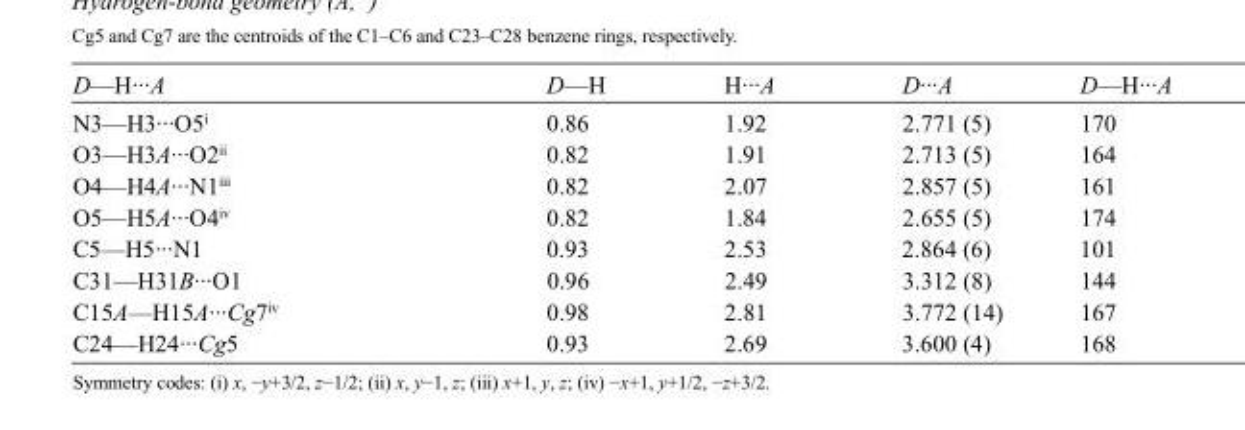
<table><tbody><tr><td>D—H···A</td><td>D—H</td><td>H···A</td><td>D···A</td><td>D—H···A</td></tr><tr><td>N3—H3···O5<sup>i</sup></td><td>0.86</td><td>1.92</td><td>2.771 (5)</td><td>170</td></tr><tr><td>O3—H3A···O2<sup>ii</sup></td><td>0.82</td><td>1.91</td><td>2.713 (5)</td><td>164</td></tr><tr><td>O4—H4A···N1<sup>iii</sup></td><td>0.82</td><td>2.07</td><td>2.857 (5)</td><td>161</td></tr><tr><td>O5—H5A···O4<sup>iv</sup></td><td>0.82</td><td>1.84</td><td>2.655 (5)</td><td>174</td></tr><tr><td>C5—H5···N1</td><td>0.93</td><td>2.53</td><td>2.864 (6)</td><td>101</td></tr><tr><td>C31—H31B···O1</td><td>0.96</td><td>2.49</td><td>3.312 (8)</td><td>144</td></tr><tr><td>C15A—H15A···Cg7<sup>iv</sup></td><td>0.98</td><td>2.81</td><td>3.772 (14)</td><td>167</td></tr><tr><td>C24—H24···Cg5</td><td>0.93</td><td>2.69</td><td>3.600 (4)</td><td>168</td></tr></tbody></table>